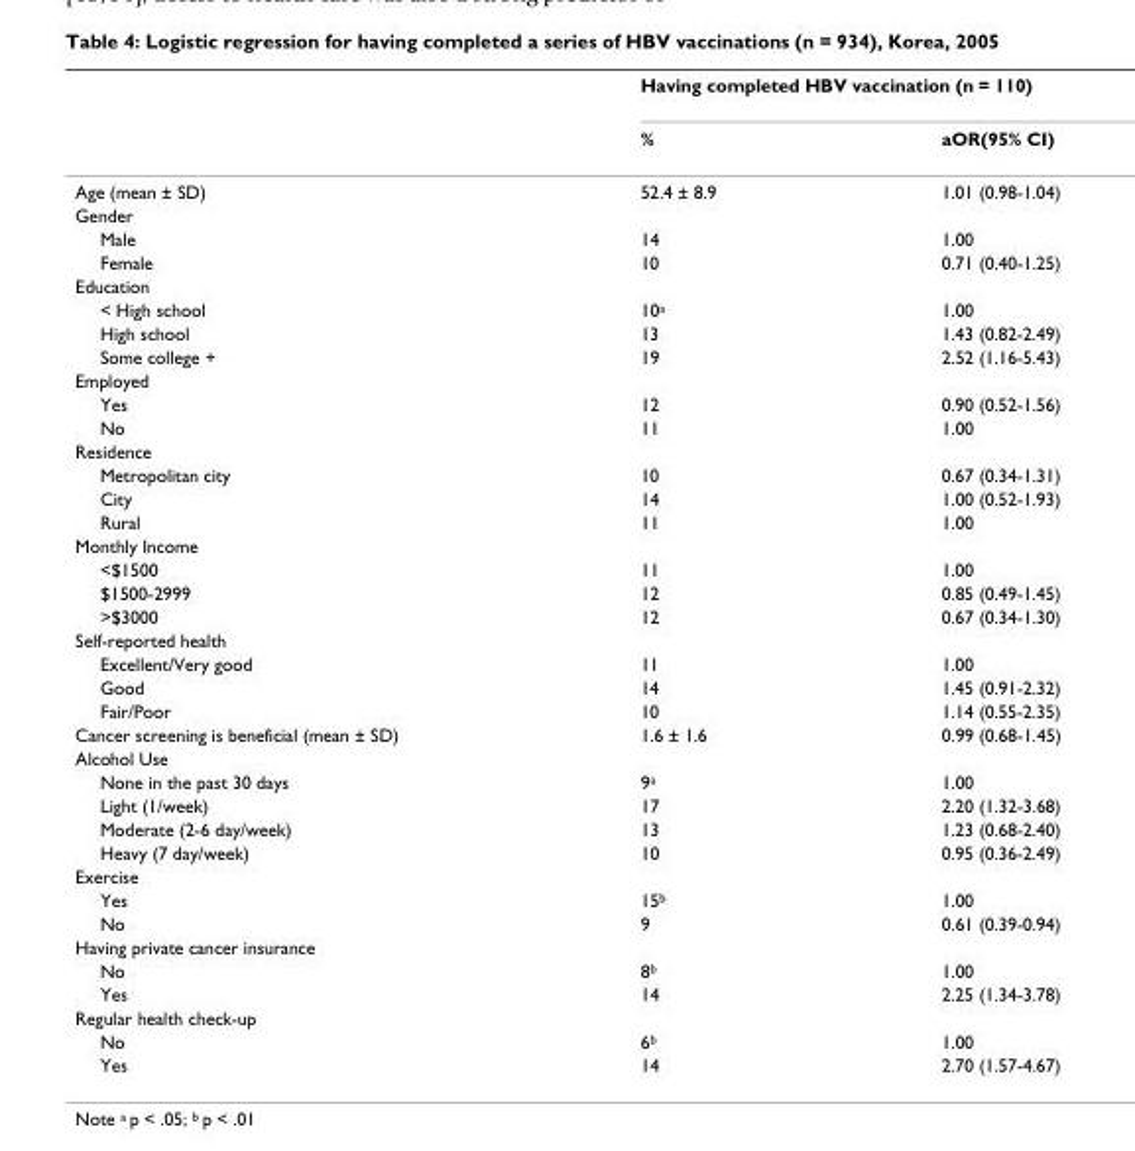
<table><thead><tr><td rowspan="2"></td><td colspan="2">Having completed HBV vaccination (n = 110)</td></tr><tr><td>%</td><td>aOR(95% CI)</td></tr></thead><tbody><tr><td>Age (mean ± SD)</td><td>52.4 ± 8.9</td><td>1.01 (0.98-1.04)</td></tr><tr><td colspan="3">Gender</td></tr><tr><td>Male</td><td>14</td><td>1.00</td></tr><tr><td>Female</td><td>10</td><td>0.71 (0.40-1.25)</td></tr><tr><td colspan="3">Education</td></tr><tr><td>&lt; High school</td><td>10<sup>a</sup></td><td>1.00</td></tr><tr><td>High school</td><td>13</td><td>1.43 (0.82-2.49)</td></tr><tr><td>Some college +</td><td>19</td><td>2.52 (1.16-5.43)</td></tr><tr><td colspan="3">Employed</td></tr><tr><td>Yes</td><td>12</td><td>0.90 (0.52-1.56)</td></tr><tr><td>No</td><td>11</td><td>1.00</td></tr><tr><td colspan="3">Residence</td></tr><tr><td>Metropolitan city</td><td>10</td><td>0.67 (0.34-1.31)</td></tr><tr><td>City</td><td>14</td><td>1.00 (0.52-1.93)</td></tr><tr><td>Rural</td><td>11</td><td>1.00</td></tr><tr><td colspan="3">Monthly Income</td></tr><tr><td>&lt;$1500</td><td>11</td><td>1.00</td></tr><tr><td>$1500-2999</td><td>12</td><td>0.85 (0.49-1.45)</td></tr><tr><td>&gt;$3000</td><td>12</td><td>0.67 (0.34-1.30)</td></tr><tr><td colspan="3">Self-reported health</td></tr><tr><td>Excellent/Very good</td><td>11</td><td>1.00</td></tr><tr><td>Good</td><td>14</td><td>1.45 (0.91-2.32)</td></tr><tr><td>Fair/Poor</td><td>10</td><td>1.14 (0.55-2.35)</td></tr><tr><td>Cancer screening is beneficial (mean ± SD)</td><td>1.6 ± 1.6</td><td>0.99 (0.68-1.45)</td></tr><tr><td colspan="3">Alcohol Use</td></tr><tr><td>None in the past 30 days</td><td>9<sup>a</sup></td><td>1.00</td></tr><tr><td>Light (1/week)</td><td>17</td><td>2.20 (1.32-3.68)</td></tr><tr><td>Moderate (2-6 day/week)</td><td>13</td><td>1.23 (0.68-2.40)</td></tr><tr><td>Heavy (7 day/week)</td><td>10</td><td>0.95 (0.36-2.49)</td></tr><tr><td colspan="3">Exercise</td></tr><tr><td>Yes</td><td>15<sup>b</sup></td><td>1.00</td></tr><tr><td>No</td><td>9</td><td>0.61 (0.39-0.94)</td></tr><tr><td colspan="3">Having private cancer insurance</td></tr><tr><td>No</td><td>8<sup>b</sup></td><td>1.00</td></tr><tr><td>Yes</td><td>14</td><td>2.25 (1.34-3.78)</td></tr><tr><td colspan="3">Regular health check-up</td></tr><tr><td>No</td><td>6<sup>b</sup></td><td>1.00</td></tr><tr><td>Yes</td><td>14</td><td>2.70 (1.57-4.67)</td></tr></tbody></table>